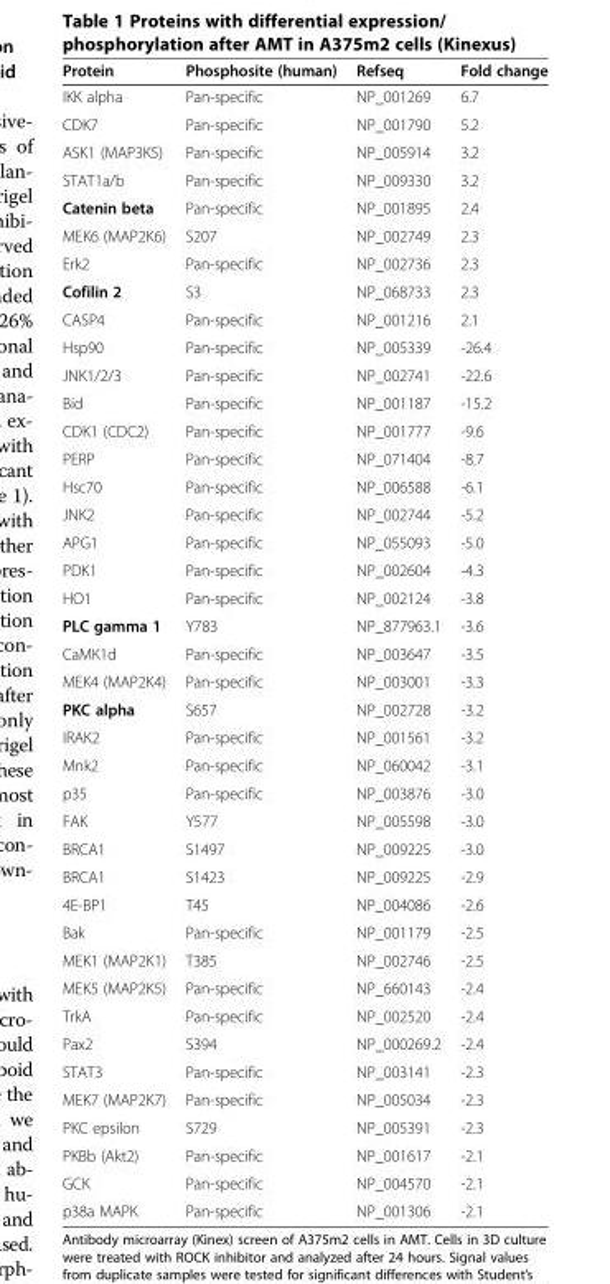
<table><thead><tr><td>Protein</td><td>Phosphosite (human)</td><td>Refseq</td><td>Fold change</td></tr></thead><tbody><tr><td>IKK alpha</td><td>Pan-specific</td><td>NP_001269</td><td>6.7</td></tr><tr><td>CDK7</td><td>Pan-specific</td><td>NP_001790</td><td>5.2</td></tr><tr><td>ASK1 (MAP3K5)</td><td>Pan-specific</td><td>NP_005914</td><td>3.2</td></tr><tr><td>STAT1a/b</td><td>Pan-specific</td><td>NP_009330</td><td>3.2</td></tr><tr><td>Catenin beta</td><td>Pan-specific</td><td>NP_001895</td><td>2.4</td></tr><tr><td>MEK6 (MAP2K6)</td><td>S207</td><td>NP_002749</td><td>2.3</td></tr><tr><td>Erk2</td><td>Pan-specific</td><td>NP_002736</td><td>2.3</td></tr><tr><td>Cofilin 2</td><td>S3</td><td>NP_068733</td><td>2.3</td></tr><tr><td>CASP4</td><td>Pan-specific</td><td>NP_001216</td><td>2.1</td></tr><tr><td>Hsp90</td><td>Pan-specific</td><td>NP_005339</td><td>-26.4</td></tr><tr><td>JNK1/2/3</td><td>Pan-specific</td><td>NP_002741</td><td>-22.6</td></tr><tr><td>Bid</td><td>Pan-specific</td><td>NP_001187</td><td>-15.2</td></tr><tr><td>CDK1 (CDC2)</td><td>Pan-specific</td><td>NP_001777</td><td>-9.6</td></tr><tr><td>PERP</td><td>Pan-specific</td><td>NP_071404</td><td>-8.7</td></tr><tr><td>Hsc70</td><td>Pan-specific</td><td>NP_006588</td><td>-6.1</td></tr><tr><td>JNK2</td><td>Pan-specific</td><td>NP_002744</td><td>-5.2</td></tr><tr><td>APG1</td><td>Pan-specific</td><td>NP_055093</td><td>-5.0</td></tr><tr><td>PDK1</td><td>Pan-specific</td><td>NP_002604</td><td>-4.3</td></tr><tr><td>HO1</td><td>Pan-specific</td><td>NP_002124</td><td>-3.8</td></tr><tr><td>PLC gamma 1</td><td>Y783</td><td>NP_877963.1</td><td>-3.6</td></tr><tr><td>CaMK1d</td><td>Pan-specific</td><td>NP_003647</td><td>-3.5</td></tr><tr><td>MEK4 (MAP2K4)</td><td>Pan-specific</td><td>NP_003001</td><td>-3.3</td></tr><tr><td>PKC alpha</td><td>S657</td><td>NP_002728</td><td>-3.2</td></tr><tr><td>IRAK2</td><td>Pan-specific</td><td>NP_001561</td><td>-3.2</td></tr><tr><td>Mnk2</td><td>Pan-specific</td><td>NP_060042</td><td>-3.1</td></tr><tr><td>p35</td><td>Pan-specific</td><td>NP_003876</td><td>-3.0</td></tr><tr><td>FAK</td><td>Y577</td><td>NP_005598</td><td>-3.0</td></tr><tr><td>BRCA1</td><td>S1497</td><td>NP_009225</td><td>-3.0</td></tr><tr><td>BRCA1</td><td>S1423</td><td>NP_009225</td><td>-2.9</td></tr><tr><td>4E-BP1</td><td>T45</td><td>NP_004086</td><td>-2.6</td></tr><tr><td>Bak</td><td>Pan-specific</td><td>NP_001179</td><td>-2.5</td></tr><tr><td>MEK1 (MAP2K1)</td><td>T385</td><td>NP_002746</td><td>-2.5</td></tr><tr><td>MEK5 (MAP2K5)</td><td>Pan-specific</td><td>NP_660143</td><td>-2.4</td></tr><tr><td>TrkA</td><td>Pan-specific</td><td>NP_002520</td><td>-2.4</td></tr><tr><td>Pax2</td><td>S394</td><td>NP_000269.2</td><td>-2.4</td></tr><tr><td>STAT3</td><td>Pan-specific</td><td>NP_003141</td><td>-2.3</td></tr><tr><td>MEK7 (MAP2K7)</td><td>Pan-specific</td><td>NP_005034</td><td>-2.3</td></tr><tr><td>PKC epsilon</td><td>S729</td><td>NP_005391</td><td>-2.3</td></tr><tr><td>PKBb (Akt2)</td><td>Pan-specific</td><td>NP_001617</td><td>-2.1</td></tr><tr><td>GCK</td><td>Pan-specific</td><td>NP_004570</td><td>-2.1</td></tr><tr><td>p38a MAPK</td><td>Pan-specific</td><td>NP_001306</td><td>-2.1</td></tr></tbody></table>